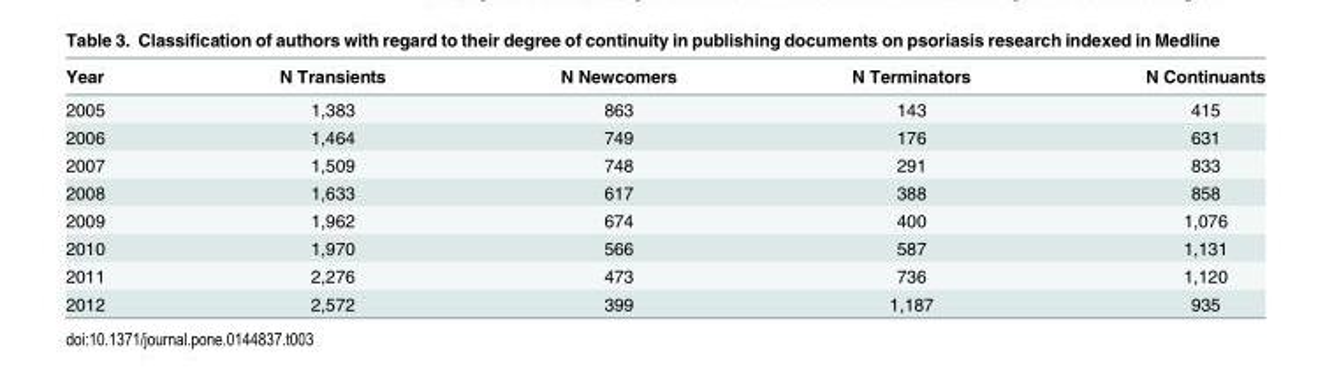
<table><thead><tr><td>Year</td><td>N Transients</td><td>N Newcomers</td><td>N Terminators</td><td>N Continuants</td></tr></thead><tbody><tr><td>2005</td><td>1,383</td><td>863</td><td>143</td><td>415</td></tr><tr><td>2006</td><td>1,464</td><td>749</td><td>176</td><td>631</td></tr><tr><td>2007</td><td>1,509</td><td>748</td><td>291</td><td>833</td></tr><tr><td>2008</td><td>1,633</td><td>617</td><td>388</td><td>858</td></tr><tr><td>2009</td><td>1,962</td><td>674</td><td>400</td><td>1,076</td></tr><tr><td>2010</td><td>1,970</td><td>566</td><td>587</td><td>1,131</td></tr><tr><td>2011</td><td>2,276</td><td>473</td><td>736</td><td>1,120</td></tr><tr><td>2012</td><td>2,572</td><td>399</td><td>1,187</td><td>935</td></tr></tbody></table>